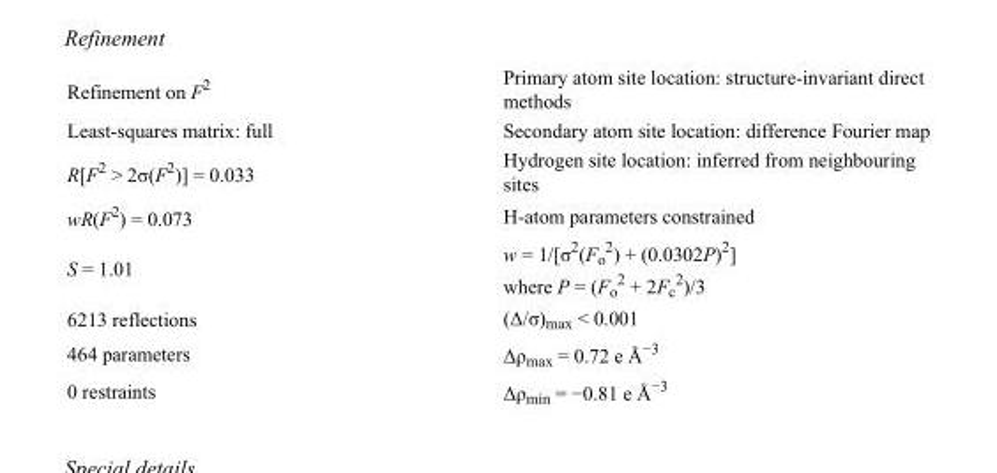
<table><tbody><tr><td>Refinement on F<sup>2</sup></td><td>Primary atom site location: structure-invariant direct methods</td></tr><tr><td>Least-squares matrix: full</td><td>Secondary atom site location: difference Fourier map</td></tr><tr><td>R[F<sup>2</sup> &gt; 2σ(F<sup>2</sup>)] = 0.033</td><td>Hydrogen site location: inferred from neighbouring sites</td></tr><tr><td>wR(F<sup>2</sup>) = 0.073</td><td>H-atom parameters constrained</td></tr><tr><td>S = 1.01</td><td>w = 1/[σ<sup>2</sup>(F<sub>o</sub> <sup>2</sup>) + (0.0302P)<sup>2</sup>] where P = (F<sub>o</sub> <sup>2</sup> + 2F<sub>c</sub> <sup>2</sup>)/3</td></tr><tr><td>6213 reflections</td><td>(Δ/σ)<sub>max</sub> &lt; 0.001</td></tr><tr><td>464 parameters</td><td>Δρ<sub>max</sub> = 0.72 e Å<sup>−3</sup></td></tr><tr><td>0 restraints</td><td>Δρ<sub>min</sub> = −0.81 e Å<sup>−3</sup></td></tr></tbody></table>